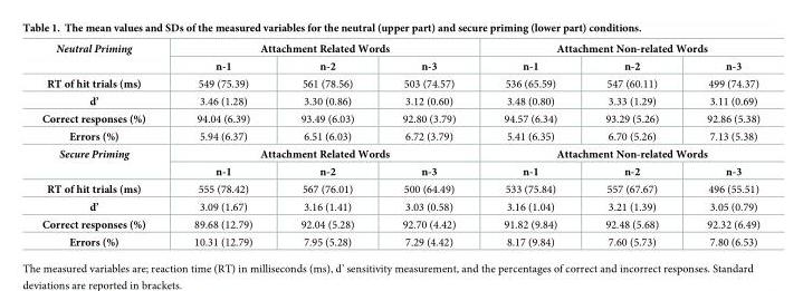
<table><tbody><tr><td rowspan="2">Neutral Priming</td><td colspan="3">Attachment Related Words</td><td colspan="3">Attachment Non-related Words</td></tr><tr><td>n-1</td><td>n-2</td><td>n-3</td><td>n-1</td><td>n-2</td><td>n-3</td></tr><tr><td>RT of hit trials (ms)</td><td>549 (75.39)</td><td>561 (78.56)</td><td>503 (74.57)</td><td>536 (65.59)</td><td>547 (60.11)</td><td>499 (74.37)</td></tr><tr><td>d’</td><td>3.46 (1.28)</td><td>3.30 (0.86)</td><td>3.12 (0.60)</td><td>3.48 (0.80)</td><td>3.33 (1.29)</td><td>3.11 (0.69)</td></tr><tr><td>Correct responses (%)</td><td>94.04 (6.39)</td><td>93.49 (6.03)</td><td>92.80 (3.79)</td><td>94.57 (6.34)</td><td>93.29 (5.26)</td><td>92.86 (5.38)</td></tr><tr><td>Errors (%)</td><td>5.94 (6.37)</td><td>6.51 (6.03)</td><td>6.72 (3.79)</td><td>5.41 (6.35)</td><td>6.70 (5.26)</td><td>7.13 (5.38)</td></tr><tr><td rowspan="2">Secure Priming</td><td colspan="3">Attachment Related Words</td><td colspan="3">Attachment Non-related Words</td></tr><tr><td>n-1</td><td>n-2</td><td>n-3</td><td>n-1</td><td>n-2</td><td>n-3</td></tr><tr><td>RT of hit trials (ms)</td><td>555 (78.42)</td><td>567 (76.01)</td><td>500 (64.49)</td><td>533 (75.84)</td><td>557 (67.67)</td><td>496 (55.51)</td></tr><tr><td>d’</td><td>3.09 (1.67)</td><td>3.16 (1.41)</td><td>3.03 (0.58)</td><td>3.16 (1.04)</td><td>3.21 (1.39)</td><td>3.05 (0.79)</td></tr><tr><td>Correct responses (%)</td><td>89.68 (12.79)</td><td>92.04 (5.28)</td><td>92.70 (4.42)</td><td>91.82 (9.84)</td><td>92.48 (5.68)</td><td>92.32 (6.49)</td></tr><tr><td>Errors (%)</td><td>10.31 (12.79)</td><td>7.95 (5.28)</td><td>7.29 (4.42)</td><td>8.17 (9.84)</td><td>7.60 (5.73)</td><td>7.80 (6.53)</td></tr></tbody></table>